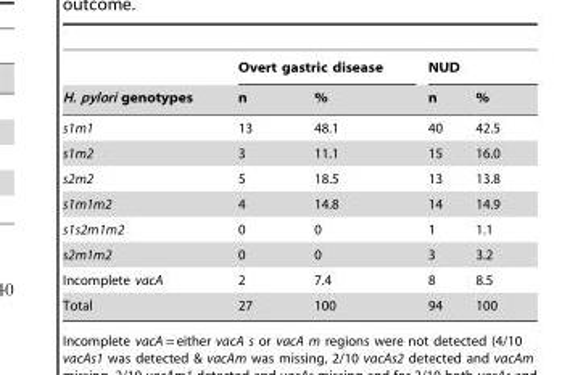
<table><thead><tr><td rowspan="2">H. pylori genotypes</td><td colspan="2">Overt gastric disease</td><td colspan="2">NUD</td></tr><tr><td>n</td><td>%</td><td>n</td><td>%</td></tr></thead><tbody><tr><td>s1m1</td><td>13</td><td>48.1</td><td>40</td><td>42.5</td></tr><tr><td>s1m2</td><td>3</td><td>11.1</td><td>15</td><td>16.0</td></tr><tr><td>s2m2</td><td>5</td><td>18.5</td><td>13</td><td>13.8</td></tr><tr><td>s1m1m2</td><td>4</td><td>14.8</td><td>14</td><td>14.9</td></tr><tr><td>s1s2m1m2</td><td>0</td><td>0</td><td>1</td><td>1.1</td></tr><tr><td>s2m1m2</td><td>0</td><td>0</td><td>3</td><td>3.2</td></tr><tr><td>Incomplete vacA</td><td>2</td><td>7.4</td><td>8</td><td>8.5</td></tr><tr><td>Total</td><td>27</td><td>100</td><td>94</td><td>100</td></tr></tbody></table>